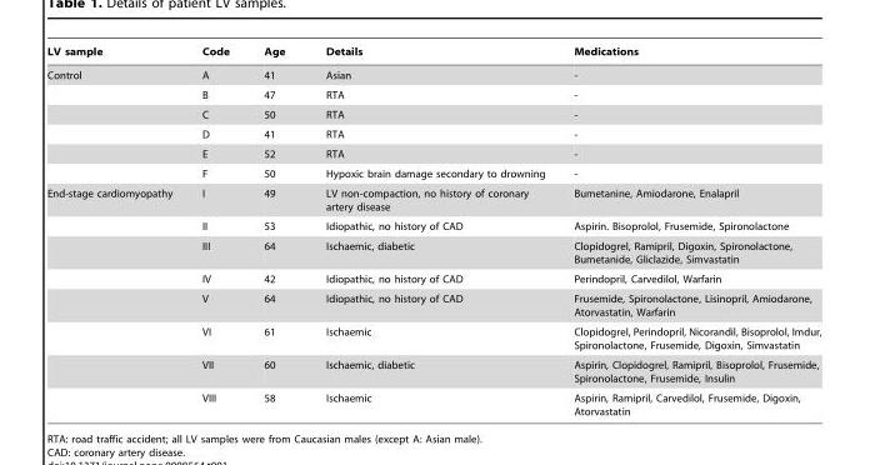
<table><thead><tr><td>LV sample</td><td>Code</td><td>Age</td><td>Details</td><td>Medications</td></tr></thead><tbody><tr><td rowspan="6">Control</td><td>A</td><td>41</td><td>Asian</td><td>-</td></tr><tr><td>B</td><td>47</td><td>RTA</td><td>-</td></tr><tr><td>C</td><td>50</td><td>RTA</td><td>-</td></tr><tr><td>D</td><td>41</td><td>RTA</td><td>-</td></tr><tr><td>E</td><td>52</td><td>RTA</td><td>-</td></tr><tr><td>F</td><td>50</td><td>Hypoxic brain damage secondary to drowning</td><td>-</td></tr><tr><td rowspan="8">End-stage cardiomyopathy</td><td>I</td><td>49</td><td>LV non-compaction, no history of coronary artery disease</td><td>Bumetanine, Amiodarone, Enalapril</td></tr><tr><td>II</td><td>53</td><td>Idiopathic, no history of CAD</td><td>Aspirin. Bisoprolol, Frusemide, Spironolactone</td></tr><tr><td>III</td><td>64</td><td>Ischaemic, diabetic</td><td>Clopidogrel, Ramipril, Digoxin, Spironolactone, Bumetanide, Gliclazide, Simvastatin</td></tr><tr><td>IV</td><td>42</td><td>Idiopathic, no history of CAD</td><td>Perindopril, Carvedilol, Warfarin</td></tr><tr><td>V</td><td>64</td><td>Idiopathic, no history of CAD</td><td>Frusemide, Spironolactone, Lisinopril, Amiodarone, Atorvastatin, Warfarin</td></tr><tr><td>VI</td><td>61</td><td>Ischaemic</td><td>Clopidogrel, Perindopril, Nicorandil, Bisoprolol, Imdur, Spironolactone, Frusemide, Digoxin, Simvastatin</td></tr><tr><td>VII</td><td>60</td><td>Ischaemic, diabetic</td><td>Aspirin, Clopidogrel, Ramipril, Bisoprolol, Frusemide, Spironolactone, Frusemide, Insulin</td></tr><tr><td>VIII</td><td>58</td><td>Ischaemic</td><td>Aspirin, Ramipril, Carvedilol, Frusemide, Digoxin, Atorvastatin</td></tr></tbody></table>